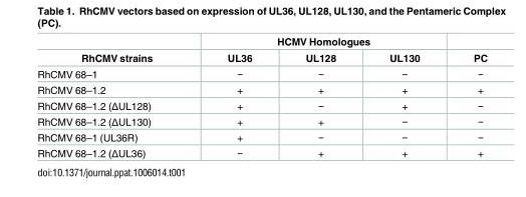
<table><thead><tr><td rowspan="2">RhCMV strains</td><td colspan="3">HCMV Homologues</td><td rowspan="2">PC</td></tr><tr><td>UL36</td><td>UL128</td><td>UL130</td></tr></thead><tbody><tr><td>RhCMV 68–1</td><td>−</td><td>−</td><td>−</td><td>−</td></tr><tr><td>RhCMV 68–1.2</td><td>+</td><td>+</td><td>+</td><td>+</td></tr><tr><td>RhCMV 68–1.2 (ΔUL128)</td><td>+</td><td>−</td><td>+</td><td>−</td></tr><tr><td>RhCMV 68–1.2 (ΔUL130)</td><td>+</td><td>+</td><td>−</td><td>−</td></tr><tr><td>RhCMV 68–1 (UL36R)</td><td>+</td><td>−</td><td>−</td><td>−</td></tr><tr><td>RhCMV 68–1.2 (ΔUL36)</td><td>−</td><td>+</td><td>+</td><td>+</td></tr></tbody></table>